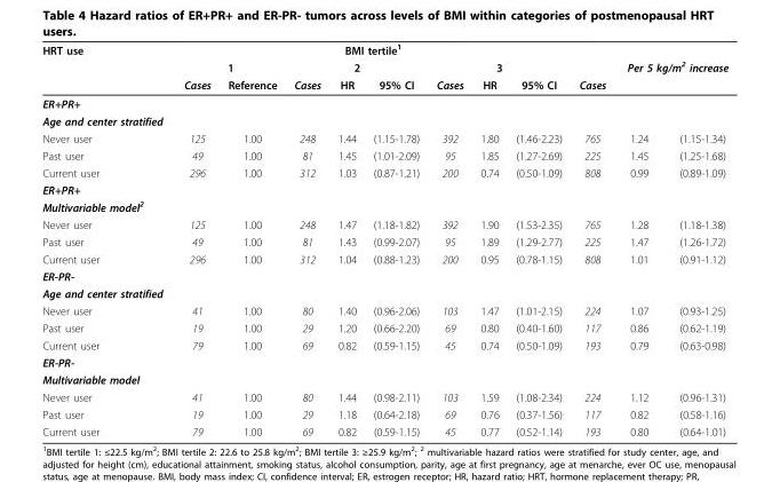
<table><thead><tr><td rowspan="3">HRT use</td><td colspan="8">BMI tertile<sup>1</sup></td><td rowspan="3">Cases</td><td></td><td></td></tr><tr><td colspan="2">1</td><td colspan="3">2</td><td colspan="3">3</td><td colspan="2">Per 5 kg/m<sup>2</sup> increase</td></tr><tr><td>Cases</td><td>Reference</td><td>Cases</td><td>HR</td><td>95% CI</td><td>Cases</td><td>HR</td><td>95% CI</td><td></td><td></td></tr></thead><tbody><tr><td colspan="12">ER+PR+</td></tr><tr><td colspan="12">Age and center stratified</td></tr><tr><td>Never user</td><td>125</td><td>1.00</td><td>248</td><td>1.44</td><td>(1.15-1.78)</td><td>392</td><td>1.80</td><td>(1.46-2.23)</td><td>765</td><td>1.24</td><td>(1.15-1.34)</td></tr><tr><td>Past user</td><td>49</td><td>1.00</td><td>81</td><td>1.45</td><td>(1.01-2.09)</td><td>95</td><td>1.85</td><td>(1.27-2.69)</td><td>225</td><td>1.45</td><td>(1.25-1.68)</td></tr><tr><td>Current user</td><td>296</td><td>1.00</td><td>312</td><td>1.03</td><td>(0.87-1.21)</td><td>200</td><td>0.74</td><td>(0.50-1.09)</td><td>808</td><td>0.99</td><td>(0.89-1.09)</td></tr><tr><td colspan="12">ER+PR+</td></tr><tr><td colspan="12">Multivariable model<sup>2</sup></td></tr><tr><td>Never user</td><td>125</td><td>1.00</td><td>248</td><td>1.47</td><td>(1.18-1.82)</td><td>392</td><td>1.90</td><td>(1.53-2.35)</td><td>765</td><td>1.28</td><td>(1.18-1.38)</td></tr><tr><td>Past user</td><td>49</td><td>1.00</td><td>81</td><td>1.43</td><td>(0.99-2.07)</td><td>95</td><td>1.89</td><td>(1.29-2.77)</td><td>225</td><td>1.47</td><td>(1.26-1.72)</td></tr><tr><td>Current user</td><td>296</td><td>1.00</td><td>312</td><td>1.04</td><td>(0.88-1.23)</td><td>200</td><td>0.95</td><td>(0.78-1.15)</td><td>808</td><td>1.01</td><td>(0.91-1.12)</td></tr><tr><td colspan="12">ER-PR-</td></tr><tr><td colspan="12">Age and center stratified</td></tr><tr><td>Never user</td><td>41</td><td>1.00</td><td>80</td><td>1.40</td><td>(0.96-2.06)</td><td>103</td><td>1.47</td><td>(1.01-2.15)</td><td>224</td><td>1.07</td><td>(0.93-1.25)</td></tr><tr><td>Past user</td><td>19</td><td>1.00</td><td>29</td><td>1.20</td><td>(0.66-2.20)</td><td>69</td><td>0.80</td><td>(0.40-1.60)</td><td>117</td><td>0.86</td><td>(0.62-1.19)</td></tr><tr><td>Current user</td><td>79</td><td>1.00</td><td>69</td><td>0.82</td><td>(0.59-1.15)</td><td>45</td><td>0.74</td><td>(0.50-1.09)</td><td>193</td><td>0.79</td><td>(0.63-0.98)</td></tr><tr><td colspan="12">ER-PR-</td></tr><tr><td colspan="12">Multivariable model</td></tr><tr><td>Never user</td><td>41</td><td>1.00</td><td>80</td><td>1.44</td><td>(0.98-2.11)</td><td>103</td><td>1.59</td><td>(1.08-2.34)</td><td>224</td><td>1.12</td><td>(0.96-1.31)</td></tr><tr><td>Past user</td><td>19</td><td>1.00</td><td>29</td><td>1.18</td><td>(0.64-2.18)</td><td>69</td><td>0.76</td><td>(0.37-1.56)</td><td>117</td><td>0.82</td><td>(0.58-1.16)</td></tr><tr><td>Current user</td><td>79</td><td>1.00</td><td>69</td><td>0.82</td><td>(0.59-1.15)</td><td>45</td><td>0.77</td><td>(0.52-1.14)</td><td>193</td><td>0.80</td><td>(0.64-1.01)</td></tr></tbody></table>